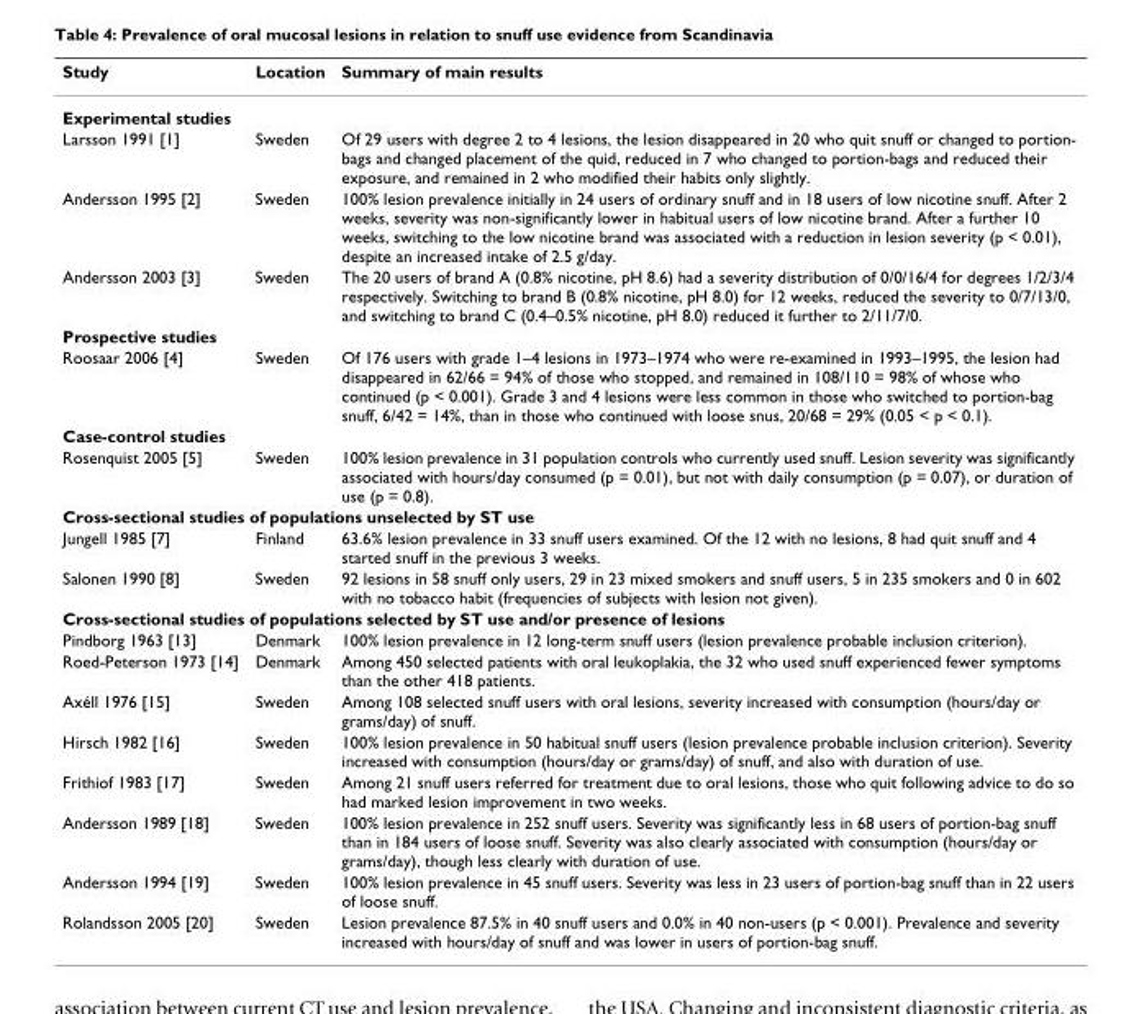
<table><thead><tr><td>Study</td><td>Location</td><td>Summary of main results</td></tr></thead><tbody><tr><td colspan="3">Experimental studies</td></tr><tr><td>Larsson 1991 [1]</td><td>Sweden</td><td>Of 29 users with degree 2 to 4 lesions, the lesion disappeared in 20 who quit snuff or changed to portion- bags and changed placement of the quid, reduced in 7 who changed to portion-bags and reduced their exposure, and remained in 2 who modified their habits only slightly.</td></tr><tr><td>Andersson 1995 [2]</td><td>Sweden</td><td>100% lesion prevalence initially in 24 users of ordinary snuff and in 18 users of low nicotine snuff. After 2 weeks, severity was non-significantly lower in habitual users of low nicotine brand. After a further 10 weeks, switching to the low nicotine brand was associated with a reduction in lesion severity (p &lt; 0.01), despite an increased intake of 2.5 g/day.</td></tr><tr><td>Andersson 2003 [3]</td><td>Sweden</td><td>The 20 users of brand A (0.8% nicotine, pH 8.6) had a severity distribution of 0/0/16/4 for degrees 1/2/3/4 respectively. Switching to brand B (0.8% nicotine, pH 8.0) for 12 weeks, reduced the severity to 0/7/13/0, and switching to brand C (0.4–0.5% nicotine, pH 8.0) reduced it further to 2/11/7/0.</td></tr><tr><td colspan="3">Prospective studies</td></tr><tr><td>Roosaar 2006 [4]</td><td>Sweden</td><td>Of 176 users with grade 1–4 lesions in 1973–1974 who were re-examined in 1993–1995, the lesion had disappeared in 62/66 = 94% of those who stopped, and remained in 108/110 = 98% of whose who continued (p &lt; 0.001). Grade 3 and 4 lesions were less common in those who switched to portion-bag snuff, 6/42 = 14%, than in those who continued with loose snus, 20/68 = 29% (0.05 &lt; p &lt; 0.1).</td></tr><tr><td colspan="3">Case-control studies</td></tr><tr><td>Rosenquist 2005 [5]</td><td>Sweden</td><td>100% lesion prevalence in 31 population controls who currently used snuff. Lesion severity was significantly associated with hours/day consumed (p = 0.01), but not with daily consumption (p = 0.07), or duration of use (p = 0.8).</td></tr><tr><td colspan="3">Cross-sectional studies of populations unselected by ST use</td></tr><tr><td>Jungell 1985 [7]</td><td>Finland</td><td>63.6% lesion prevalence in 33 snuff users examined. Of the 12 with no lesions, 8 had quit snuff and 4 started snuff in the previous 3 weeks.</td></tr><tr><td>Salonen 1990 [8]</td><td>Sweden</td><td>92 lesions in 58 snuff only users, 29 in 23 mixed smokers and snuff users, 5 in 235 smokers and 0 in 602 with no tobacco habit (frequencies of subjects with lesion not given).</td></tr><tr><td colspan="3">Cross-sectional studies of populations selected by ST use and/or presence of lesions</td></tr><tr><td>Pindborg 1963 [13]</td><td>Denmark</td><td>100% lesion prevalence in 12 long-term snuff users (lesion prevalence probable inclusion criterion).</td></tr><tr><td>Roed-Peterson 1973 [14]</td><td>Denmark</td><td>Among 450 selected patients with oral leukoplakia, the 32 who used snuff experienced fewer symptoms than the other 418 patients.</td></tr><tr><td>Axéll 1976 [15]</td><td>Sweden</td><td>Among 108 selected snuff users with oral lesions, severity increased with consumption (hours/day or grams/day) of snuff.</td></tr><tr><td>Hirsch 1982 [16]</td><td>Sweden</td><td>100% lesion prevalence in 50 habitual snuff users (lesion prevalence probable inclusion criterion). Severity increased with consumption (hours/day or grams/day) of snuff, and also with duration of use.</td></tr><tr><td>Frithiof 1983 [17]</td><td>Sweden</td><td>Among 21 snuff users referred for treatment due to oral lesions, those who quit following advice to do so had marked lesion improvement in two weeks.</td></tr><tr><td>Andersson 1989 [18]</td><td>Sweden</td><td>100% lesion prevalence in 252 snuff users. Severity was significantly less in 68 users of portion-bag snuff than in 184 users of loose snuff. Severity was also clearly associated with consumption (hours/day or grams/day), though less clearly with duration of use.</td></tr><tr><td>Andersson 1994 [19]</td><td>Sweden</td><td>100% lesion prevalence in 45 snuff users. Severity was less in 23 users of portion-bag snuff than in 22 users of loose snuff.</td></tr><tr><td>Rolandsson 2005 [20]</td><td>Sweden</td><td>Lesion prevalence 87.5% in 40 snuff users and 0.0% in 40 non-users (p &lt; 0.001). Prevalence and severity increased with hours/day of snuff and was lower in users of portion-bag snuff.</td></tr></tbody></table>